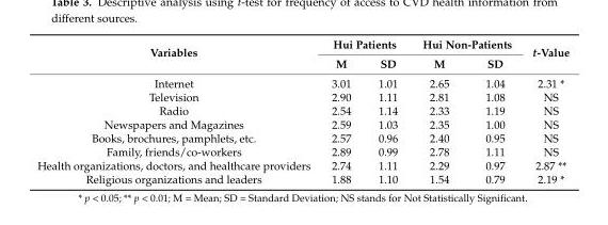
<table><thead><tr><td rowspan="2">Variables</td><td colspan="2">Hui Patients</td><td colspan="2">Hui Non-Patients</td><td rowspan="2">t-Value</td></tr><tr><td>M</td><td>SD</td><td>M</td><td>SD</td></tr></thead><tbody><tr><td>Internet</td><td>3.01</td><td>1.01</td><td>2.65</td><td>1.04</td><td>2.31 *</td></tr><tr><td>Television</td><td>2.90</td><td>1.11</td><td>2.81</td><td>1.08</td><td>NS</td></tr><tr><td>Radio</td><td>2.54</td><td>1.14</td><td>2.33</td><td>1.19</td><td>NS</td></tr><tr><td>Newspapers and Magazines</td><td>2.59</td><td>1.03</td><td>2.35</td><td>1.00</td><td>NS</td></tr><tr><td>Books, brochures, pamphlets, etc.</td><td>2.57</td><td>0.96</td><td>2.40</td><td>0.95</td><td>NS</td></tr><tr><td>Family, friends/co-workers</td><td>2.89</td><td>0.99</td><td>2.78</td><td>1.11</td><td>NS</td></tr><tr><td>Health organizations, doctors, and healthcare providers</td><td>2.74</td><td>1.11</td><td>2.29</td><td>0.97</td><td>2.87 **</td></tr><tr><td>Religious organizations and leaders</td><td>1.88</td><td>1.10</td><td>1.54</td><td>0.79</td><td>2.19 *</td></tr></tbody></table>